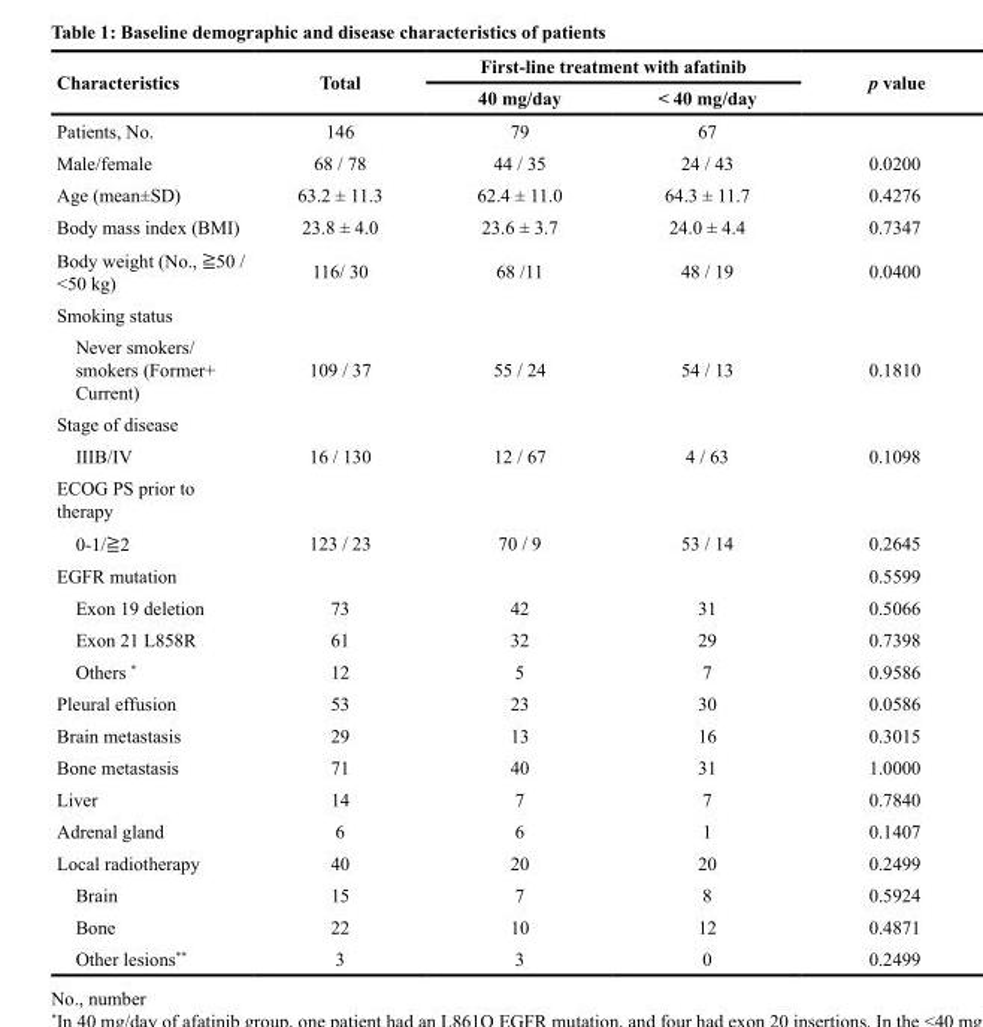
<table><thead><tr><td rowspan="2">Characteristics</td><td rowspan="2">Total</td><td colspan="2">First-line treatment with afatinib</td><td rowspan="2">p value</td></tr><tr><td>40 mg/day</td><td>&lt; 40 mg/day</td></tr></thead><tbody><tr><td>Patients, No.</td><td>146</td><td>79</td><td>67</td><td></td></tr><tr><td>Male/female</td><td>68 / 78</td><td>44 / 35</td><td>24 / 43</td><td>0.0200</td></tr><tr><td>Age (mean±SD)</td><td>63.2 ± 11.3</td><td>62.4 ± 11.0</td><td>64.3 ± 11.7</td><td>0.4276</td></tr><tr><td>Body mass index (BMI)</td><td>23.8 ± 4.0</td><td>23.6 ± 3.7</td><td>24.0 ± 4.4</td><td>0.7347</td></tr><tr><td>Body weight (No., ≧50 / &lt;50 kg)</td><td>116/ 30</td><td>68 /11</td><td>48 / 19</td><td>0.0400</td></tr><tr><td colspan="5">Smoking status</td></tr><tr><td>Never smokers/ smokers (Former+ Current)</td><td>109 / 37</td><td>55 / 24</td><td>54 / 13</td><td>0.1810</td></tr><tr><td colspan="5">Stage of disease</td></tr><tr><td>IIIB/IV</td><td>16 / 130</td><td>12 / 67</td><td>4 / 63</td><td>0.1098</td></tr><tr><td colspan="5">ECOG PS prior to therapy</td></tr><tr><td>0-1/≧2</td><td>123 / 23</td><td>70 / 9</td><td>53 / 14</td><td>0.2645</td></tr><tr><td>EGFR mutation</td><td></td><td></td><td></td><td>0.5599</td></tr><tr><td>Exon 19 deletion</td><td>73</td><td>42</td><td>31</td><td>0.5066</td></tr><tr><td>Exon 21 L858R</td><td>61</td><td>32</td><td>29</td><td>0.7398</td></tr><tr><td>Others *</td><td>12</td><td>5</td><td>7</td><td>0.9586</td></tr><tr><td>Pleural effusion</td><td>53</td><td>23</td><td>30</td><td>0.0586</td></tr><tr><td>Brain metastasis</td><td>29</td><td>13</td><td>16</td><td>0.3015</td></tr><tr><td>Bone metastasis</td><td>71</td><td>40</td><td>31</td><td>1.0000</td></tr><tr><td>Liver</td><td>14</td><td>7</td><td>7</td><td>0.7840</td></tr><tr><td>Adrenal gland</td><td>6</td><td>6</td><td>1</td><td>0.1407</td></tr><tr><td>Local radiotherapy</td><td>40</td><td>20</td><td>20</td><td>0.2499</td></tr><tr><td>Brain</td><td>15</td><td>7</td><td>8</td><td>0.5924</td></tr><tr><td>Bone</td><td>22</td><td>10</td><td>12</td><td>0.4871</td></tr><tr><td>Other lesions**</td><td>3</td><td>3</td><td>0</td><td>0.2499</td></tr></tbody></table>